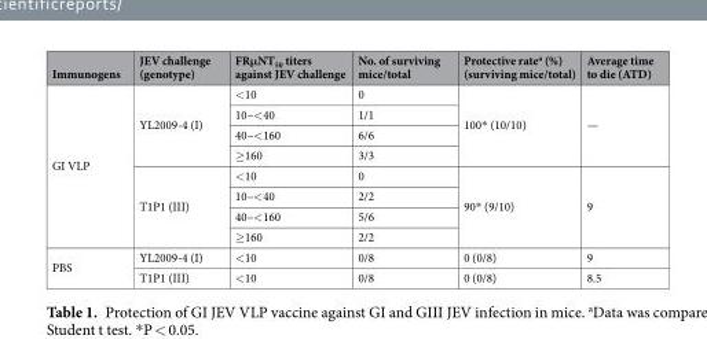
<table><thead><tr><td>Immunogens</td><td>JEV challenge (genotype)</td><td>FRμNT<sub>50</sub> titers against JEV challenge</td><td>No. of surviving mice/total</td><td>Protective rate<sup>a</sup> (%) (surviving mice/total)</td><td>Average time to die (ATD)</td></tr></thead><tbody><tr><td rowspan="8">GI VLP</td><td rowspan="4">YL2009-4 (I)</td><td>&lt;10</td><td>0</td><td rowspan="4">100* (10/10)</td><td rowspan="4">—</td></tr><tr><td>10–&lt;40</td><td>1/1</td></tr><tr><td>40–&lt;160</td><td>6/6</td></tr><tr><td>≥160</td><td>3/3</td></tr><tr><td rowspan="4">T1P1 (III)</td><td>&lt;10</td><td>0</td><td rowspan="4">90* (9/10)</td><td rowspan="4">9</td></tr><tr><td>10–&lt;40</td><td>2/2</td></tr><tr><td>40–&lt;160</td><td>5/6</td></tr><tr><td>≥160</td><td>2/2</td></tr><tr><td rowspan="2">PBS</td><td>YL2009-4 (I)</td><td>&lt;10</td><td>0/8</td><td>0 (0/8)</td><td>9</td></tr><tr><td>T1P1 (III)</td><td>&lt;10</td><td>0/8</td><td>0 (0/8)</td><td>8.5</td></tr></tbody></table>